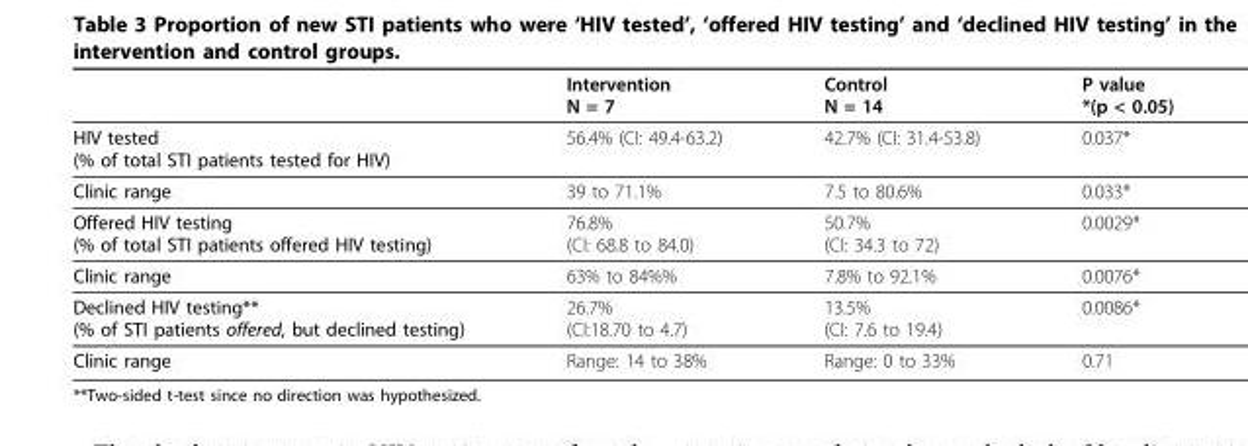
<table><thead><tr><td></td><td>Intervention N = 7</td><td>Control N = 14</td><td>P value *(p &lt; 0.05)</td></tr></thead><tbody><tr><td>HIV tested (% of total STI patients tested for HIV)</td><td>56.4% (CI: 49.4-63.2)</td><td>42.7% (CI: 31.4-53.8)</td><td>0.037*</td></tr><tr><td>Clinic range</td><td>39 to 71.1%</td><td>7.5 to 80.6%</td><td>0.033*</td></tr><tr><td>Offered HIV testing (% of total STI patients offered HIV testing)</td><td>76.8% (CI: 68.8 to 84.0)</td><td>50.7% (CI: 34.3 to 72)</td><td>0.0029*</td></tr><tr><td>Clinic range</td><td>63% to 84%%</td><td>7.8% to 92.1%</td><td>0.0076*</td></tr><tr><td>Declined HIV testing** (% of STI patients offered, but declined testing)</td><td>26.7% (CI:18.70 to 4.7)</td><td>13.5% (CI: 7.6 to 19.4)</td><td>0.0086*</td></tr><tr><td>Clinic range</td><td>Range: 14 to 38%</td><td>Range: 0 to 33%</td><td>0.71</td></tr></tbody></table>